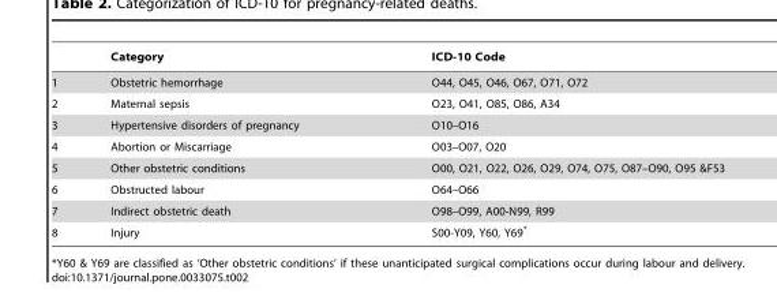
<table><thead><tr><td></td><td>Category</td><td>ICD-10 Code</td></tr></thead><tbody><tr><td>1</td><td>Obstetric hemorrhage</td><td>O44, O45, O46, O67, O71, O72</td></tr><tr><td>2</td><td>Maternal sepsis</td><td>O23, O41, O85, O86, A34</td></tr><tr><td>3</td><td>Hypertensive disorders of pregnancy</td><td>O10–O16</td></tr><tr><td>4</td><td>Abortion or Miscarriage</td><td>O03–O07, O20</td></tr><tr><td>5</td><td>Other obstetric conditions</td><td>O00, O21, O22, O26, O29, O74, O75, O87–O90, O95 &amp;F53</td></tr><tr><td>6</td><td>Obstructed labour</td><td>O64–O66</td></tr><tr><td>7</td><td>Indirect obstetric death</td><td>O98–O99, A00-N99, R99</td></tr><tr><td>8</td><td>Injury</td><td>S00-Y09, Y60, Y69*</td></tr></tbody></table>